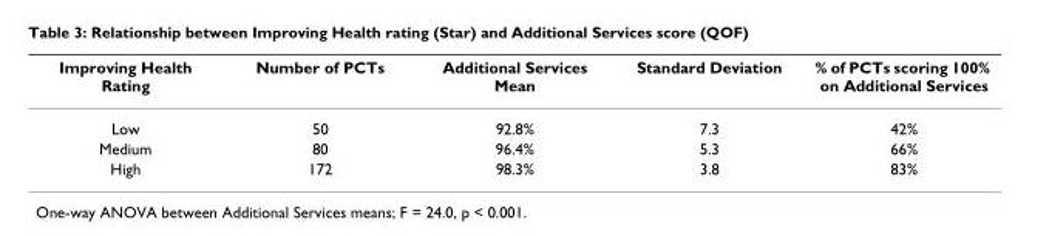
<table><thead><tr><td>Improving Health Rating</td><td>Number of PCTs</td><td>Additional Services Mean</td><td>Standard Deviation</td><td>% of PCTs scoring 100% on Additional Services</td></tr></thead><tbody><tr><td>Low</td><td>50</td><td>92.8%</td><td>7.3</td><td>42%</td></tr><tr><td>Medium</td><td>80</td><td>96.4%</td><td>5.3</td><td>66%</td></tr><tr><td>High</td><td>172</td><td>98.3%</td><td>3.8</td><td>83%</td></tr></tbody></table>